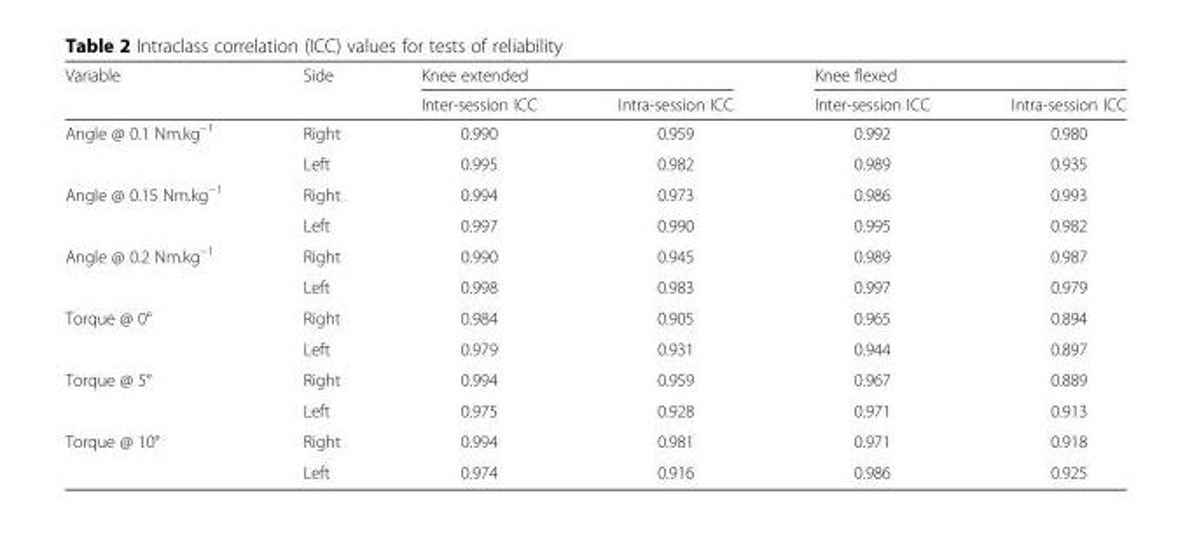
<table><thead><tr><td rowspan="2">Variable</td><td rowspan="2">Side</td><td colspan="2">Knee extended</td><td colspan="2">Knee flexed</td></tr><tr><td>Inter-session ICC</td><td>Intra-session ICC</td><td>Inter-session ICC</td><td>Intra-session ICC</td></tr></thead><tbody><tr><td rowspan="2">Angle @ 0.1 Nm.kg<sup>−1</sup></td><td>Right</td><td>0.990</td><td>0.959</td><td>0.992</td><td>0.980</td></tr><tr><td>Left</td><td>0.995</td><td>0.982</td><td>0.989</td><td>0.935</td></tr><tr><td rowspan="2">Angle @ 0.15 Nm.kg<sup>−1</sup></td><td>Right</td><td>0.994</td><td>0.973</td><td>0.986</td><td>0.993</td></tr><tr><td>Left</td><td>0.997</td><td>0.990</td><td>0.995</td><td>0.982</td></tr><tr><td rowspan="2">Angle @ 0.2 Nm.kg<sup>−1</sup></td><td>Right</td><td>0.990</td><td>0.945</td><td>0.989</td><td>0.987</td></tr><tr><td>Left</td><td>0.998</td><td>0.983</td><td>0.997</td><td>0.979</td></tr><tr><td rowspan="2">Torque @ 0°</td><td>Right</td><td>0.984</td><td>0.905</td><td>0.965</td><td>0.894</td></tr><tr><td>Left</td><td>0.979</td><td>0.931</td><td>0.944</td><td>0.897</td></tr><tr><td rowspan="2">Torque @ 5°</td><td>Right</td><td>0.994</td><td>0.959</td><td>0.967</td><td>0.889</td></tr><tr><td>Left</td><td>0.975</td><td>0.928</td><td>0.971</td><td>0.913</td></tr><tr><td rowspan="2">Torque @ 10°</td><td>Right</td><td>0.994</td><td>0.981</td><td>0.971</td><td>0.918</td></tr><tr><td>Left</td><td>0.974</td><td>0.916</td><td>0.986</td><td>0.925</td></tr></tbody></table>